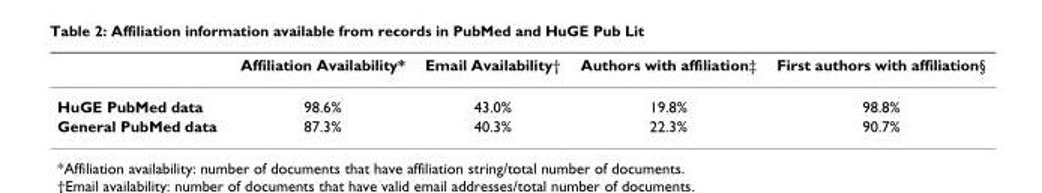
<table><thead><tr><td></td><td>Affiliation Availability*</td><td>Email Availability†</td><td>Authors with affiliation‡</td><td>First authors with affiliation§</td></tr></thead><tbody><tr><td>HuGE PubMed data</td><td>98.6%</td><td>43.0%</td><td>19.8%</td><td>98.8%</td></tr><tr><td>General PubMed data</td><td>87.3%</td><td>40.3%</td><td>22.3%</td><td>90.7%</td></tr></tbody></table>